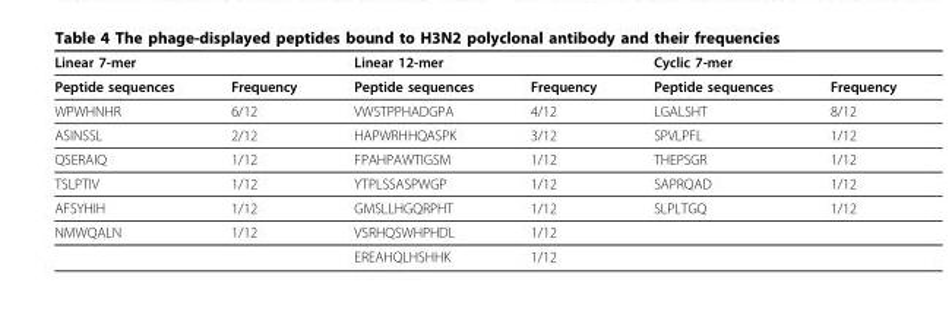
<table><thead><tr><td colspan="2">Linear 7-mer</td><td colspan="2">Linear 12-mer</td><td colspan="2">Cyclic 7-mer</td></tr><tr><td>Peptide sequences</td><td>Frequency</td><td>Peptide sequences</td><td>Frequency</td><td>Peptide sequences</td><td>Frequency</td></tr></thead><tbody><tr><td>WPWHNHR</td><td>6/12</td><td>VWSTPPHADGPA</td><td>4/12</td><td>LGALSHT</td><td>8/12</td></tr><tr><td>ASINSSL</td><td>2/12</td><td>HAPWRHHQASPK</td><td>3/12</td><td>SPVLPFL</td><td>1/12</td></tr><tr><td>QSERAIQ</td><td>1/12</td><td>FPAHPAWTIGSM</td><td>1/12</td><td>THEPSGR</td><td>1/12</td></tr><tr><td>TSLPTIV</td><td>1/12</td><td>YTPLSSASPWGP</td><td>1/12</td><td>SAPRQAD</td><td>1/12</td></tr><tr><td>AFSYHIH</td><td>1/12</td><td>GMSLLHGQRPHT</td><td>1/12</td><td>SLPLTGQ</td><td>1/12</td></tr><tr><td rowspan="2">NMWQALN</td><td>1/12</td><td>VSRHQSWHPHDL</td><td>1/12</td><td></td><td></td></tr><tr><td></td><td>EREAHQLHSHHK</td><td>1/12</td><td></td><td></td></tr></tbody></table>